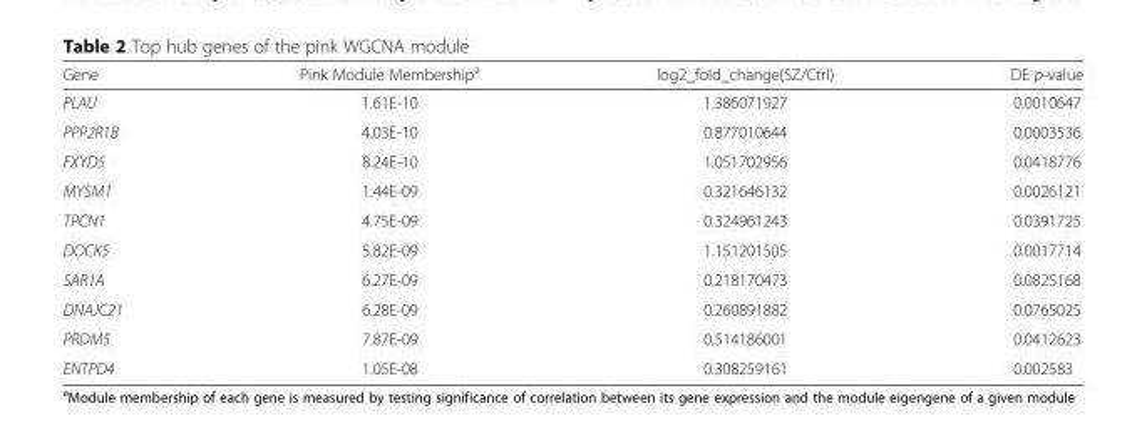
<table><thead><tr><td>Gene</td><td>Pink Module Membership<sup>a</sup></td><td>log2_fold_change(SZ/Ctrl)</td><td>DE p-value</td></tr></thead><tbody><tr><td>PLAU</td><td>1.61E-10</td><td>1.386071927</td><td>0.0010647</td></tr><tr><td>PPP2R1B</td><td>4.03E-10</td><td>0.877010644</td><td>0.0003536</td></tr><tr><td>FXYD5</td><td>8.24E-10</td><td>1.051702956</td><td>0.0418776</td></tr><tr><td>MYSM1</td><td>1.44E-09</td><td>0.321646132</td><td>0.0026121</td></tr><tr><td>TPCN1</td><td>4.75E-09</td><td>0.324961243</td><td>0.0391725</td></tr><tr><td>DOCK5</td><td>5.82E-09</td><td>1.151201505</td><td>0.0017714</td></tr><tr><td>SAR1A</td><td>6.27E-09</td><td>0.218170473</td><td>0.0825168</td></tr><tr><td>DNAJC21</td><td>6.28E-09</td><td>0.260891882</td><td>0.0765025</td></tr><tr><td>PRDM5</td><td>7.87E-09</td><td>0.514186001</td><td>0.0412623</td></tr><tr><td>ENTPD4</td><td>1.05E-08</td><td>0.308259161</td><td>0.002583</td></tr></tbody></table>